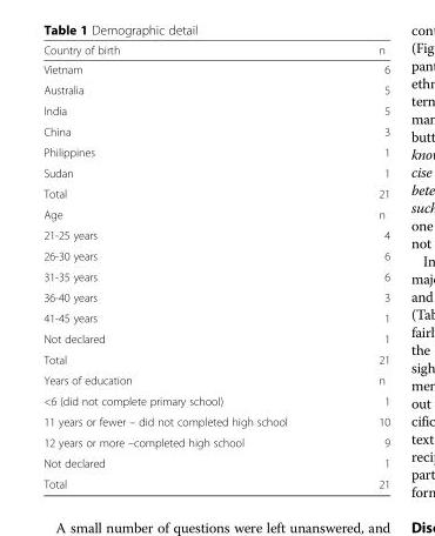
<table><thead><tr><td>Country of birth</td><td>n</td></tr></thead><tbody><tr><td>Vietnam</td><td>6</td></tr><tr><td>Australia</td><td>5</td></tr><tr><td>India</td><td>5</td></tr><tr><td>China</td><td>3</td></tr><tr><td>Philippines</td><td>1</td></tr><tr><td>Sudan</td><td>1</td></tr><tr><td>Total</td><td>21</td></tr><tr><td>Age</td><td>n</td></tr><tr><td>21-25 years</td><td>4</td></tr><tr><td>26-30 years</td><td>6</td></tr><tr><td>31-35 years</td><td>6</td></tr><tr><td>36-40 years</td><td>3</td></tr><tr><td>41-45 years</td><td>1</td></tr><tr><td>Not declared</td><td>1</td></tr><tr><td>Total</td><td>21</td></tr><tr><td>Years of education</td><td>n</td></tr><tr><td>&lt;6 (did not complete primary school)</td><td>1</td></tr><tr><td>11 years or fewer – did not completed high school</td><td>10</td></tr><tr><td>12 years or more –completed high school</td><td>9</td></tr><tr><td>Not declared</td><td>1</td></tr><tr><td>Total</td><td>21</td></tr></tbody></table>